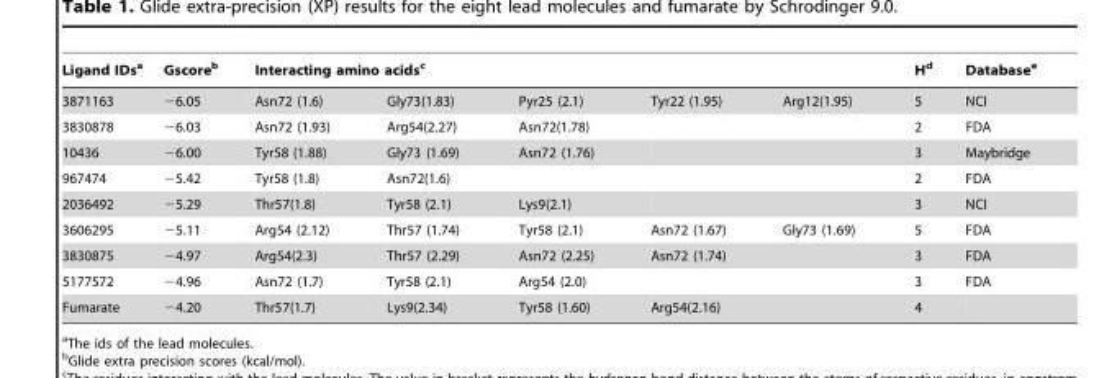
<table><thead><tr><td rowspan="2">Ligand IDs<sup>a</sup> 3871163</td><td rowspan="2">Gscore<sup>b</sup> −6.05</td><td colspan="5">Interacting amino acids<sup>c</sup></td><td rowspan="2">H<sup>d</sup> 5</td><td rowspan="2">Database<sup>e</sup> NCI</td></tr><tr><td>Asn72 (1.6)</td><td>Gly73(1.83)</td><td>Pyr25 (2.1)</td><td>Tyr22 (1.95)</td><td>Arg12(1.95)</td></tr></thead><tbody><tr><td>3830878</td><td>−6.03</td><td>Asn72 (1.93)</td><td>Arg54(2.27)</td><td>Asn72(1.78)</td><td></td><td></td><td>2</td><td>FDA</td></tr><tr><td>10436</td><td>−6.00</td><td>Tyr58 (1.88)</td><td>Gly73 (1.69)</td><td>Asn72 (1.76)</td><td></td><td></td><td>3</td><td>Maybridge</td></tr><tr><td>967474</td><td>−5.42</td><td>Tyr58 (1.8)</td><td>Asn72(1.6)</td><td></td><td></td><td></td><td>2</td><td>FDA</td></tr><tr><td>2036492</td><td>−5.29</td><td>Thr57(1.8)</td><td>Tyr58 (2.1)</td><td>Lys9(2.1)</td><td></td><td></td><td>3</td><td>NCI</td></tr><tr><td>3606295</td><td>−5.11</td><td>Arg54 (2.12)</td><td>Thr57 (1.74)</td><td>Tyr58 (2.1)</td><td>Asn72 (1.67)</td><td>Gly73 (1.69)</td><td>5</td><td>FDA</td></tr><tr><td>3830875</td><td>−4.97</td><td>Arg54(2.3)</td><td>Thr57 (2.29)</td><td>Asn72 (2.25)</td><td>Asn72 (1.74)</td><td></td><td>3</td><td>FDA</td></tr><tr><td>5177572</td><td>−4.96</td><td>Asn72 (1.7)</td><td>Tyr58 (2.1)</td><td>Arg54 (2.0)</td><td></td><td></td><td>3</td><td>FDA</td></tr><tr><td>Fumarate</td><td>−4.20</td><td>Thr57(1.7)</td><td>Lys9(2.34)</td><td>Tyr58 (1.60)</td><td>Arg54(2.16)</td><td></td><td>4</td><td></td></tr></tbody></table>